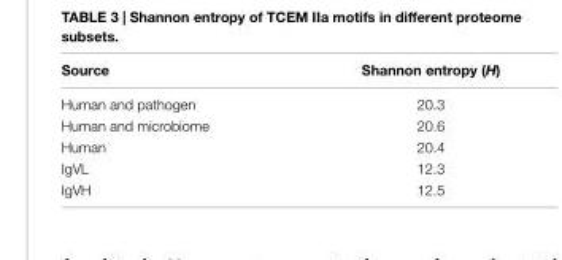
<table><thead><tr><td>source</td><td>shannon entropy (H)</td></tr></thead><tbody><tr><td>Human and pathogen</td><td>20.3</td></tr><tr><td>Human and microbiome</td><td>20.6</td></tr><tr><td>Human</td><td>20.4</td></tr><tr><td>IgVL</td><td>12.3</td></tr><tr><td>IgVH</td><td>12.5</td></tr></tbody></table>